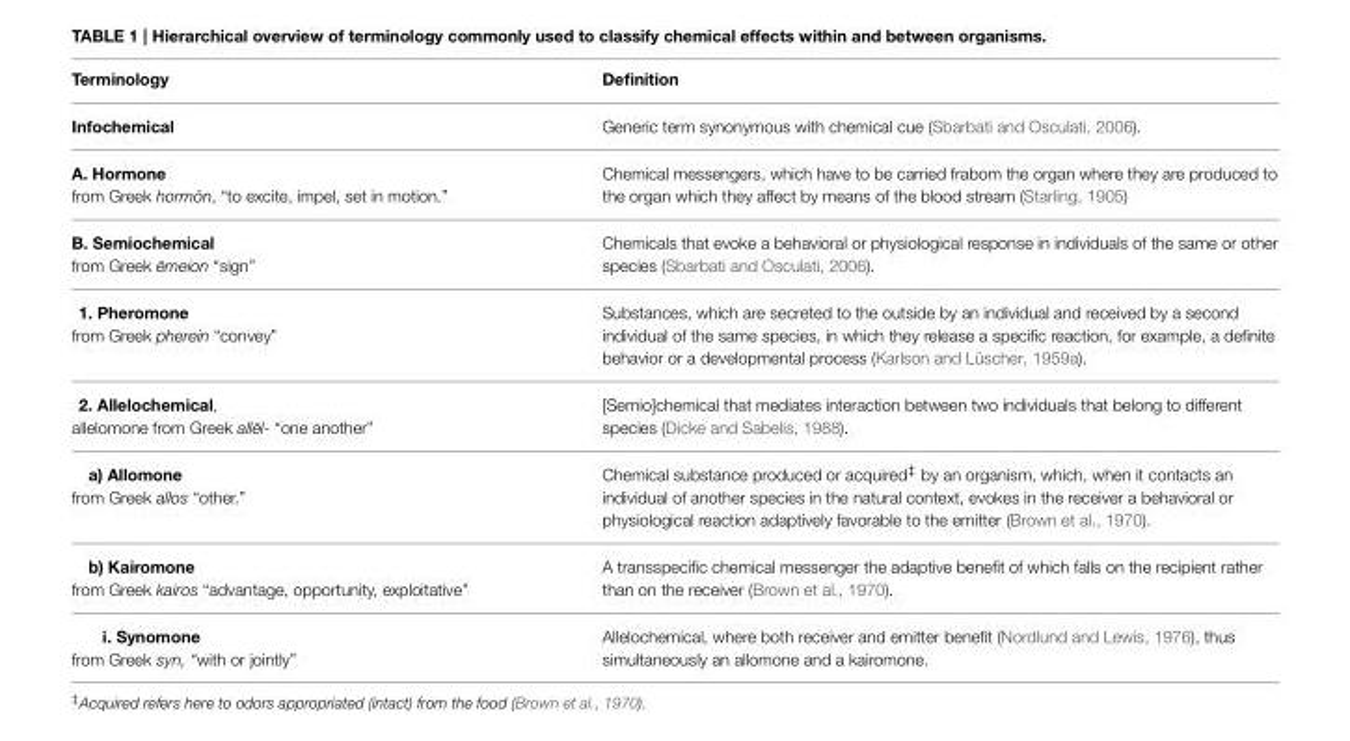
<table><thead><tr><td>Terminology</td><td>Definition</td></tr></thead><tbody><tr><td>Infochemical</td><td>Generic term synonymous with chemical cue (Sbarbati and Osculati, 2006).</td></tr><tr><td>A. Hormone from Greek horm ¯on, “to excite, impel, set in motion.”</td><td>Chemical messengers, which have to be carried frabom the organ where they are produced to the organ which they affect by means of the blood stream (Starling, 1905)</td></tr><tr><td>B. Semiochemical from Greek ¯emeion “sign”</td><td>Chemicals that evoke a behavioral or physiological response in individuals of the same or other species (Sbarbati and Osculati, 2006).</td></tr><tr><td>1. Pheromone from Greek pherein “convey”</td><td>Substances, which are secreted to the outside by an individual and received by a second individual of the same species, in which they release a specific reaction, for example, a definite behavior or a developmental process (Karlson and Lüscher, 1959a).</td></tr><tr><td>2. Allelochemical, allelomone from Greek all ¯el- “one another”</td><td>[Semio]chemical that mediates interaction between two individuals that belong to different species (Dicke and Sabelis, 1988).</td></tr><tr><td>a) Allomone from Greek allos “other.”</td><td>Chemical substance produced or acquired<sup>‡</sup> by an organism, which, when it contacts an individual of another species in the natural context, evokes in the receiver a behavioral or physiological reaction adaptively favorable to the emitter (Brown et al., 1970).</td></tr><tr><td>b) Kairomone from Greek kairos “advantage, opportunity, exploitative”</td><td>A transspecific chemical messenger the adaptive benefit of which falls on the recipient rather than on the receiver (Brown et al., 1970).</td></tr><tr><td>i. Synomone from Greek syn, “with or jointly”</td><td>Allelochemical, where both receiver and emitter benefit (Nordlund and Lewis, 1976), thus simultaneously an allomone and a kairomone.</td></tr></tbody></table>